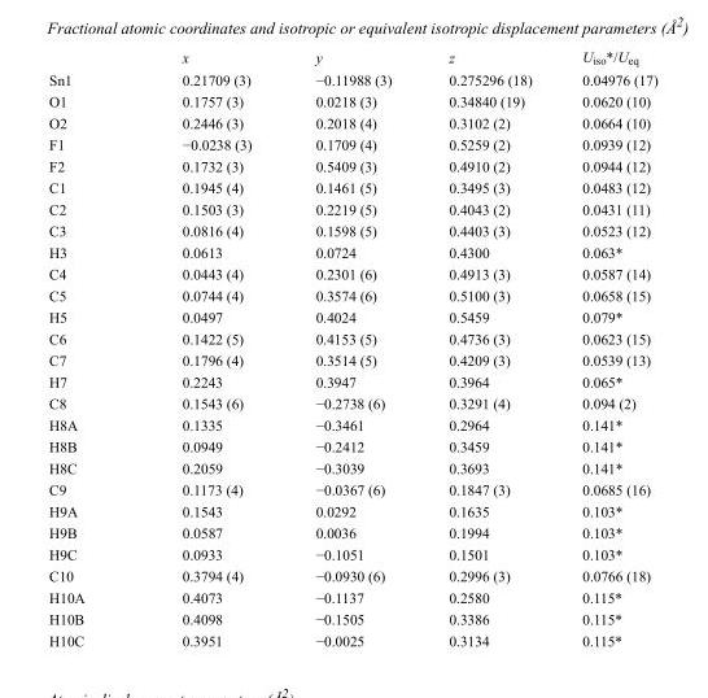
<table><thead><tr><td></td><td>x</td><td>y</td><td>z</td><td>U<sub>iso</sub>*/U<sub>eq</sub></td></tr></thead><tbody><tr><td>Sn1</td><td>0.21709 (3)</td><td>−0.11988 (3)</td><td>0.275296 (18)</td><td>0.04976 (17)</td></tr><tr><td>O1</td><td>0.1757 (3)</td><td>0.0218 (3)</td><td>0.34840 (19)</td><td>0.0620 (10)</td></tr><tr><td>O2</td><td>0.2446 (3)</td><td>0.2018 (4)</td><td>0.3102 (2)</td><td>0.0664 (10)</td></tr><tr><td>F1</td><td>−0.0238 (3)</td><td>0.1709 (4)</td><td>0.5259 (2)</td><td>0.0939 (12)</td></tr><tr><td>F2</td><td>0.1732 (3)</td><td>0.5409 (3)</td><td>0.4910 (2)</td><td>0.0944 (12)</td></tr><tr><td>C1</td><td>0.1945 (4)</td><td>0.1461 (5)</td><td>0.3495 (3)</td><td>0.0483 (12)</td></tr><tr><td>C2</td><td>0.1503 (3)</td><td>0.2219 (5)</td><td>0.4043 (2)</td><td>0.0431 (11)</td></tr><tr><td>C3</td><td>0.0816 (4)</td><td>0.1598 (5)</td><td>0.4403 (3)</td><td>0.0523 (12)</td></tr><tr><td>H3</td><td>0.0613</td><td>0.0724</td><td>0.4300</td><td>0.063*</td></tr><tr><td>C4</td><td>0.0443 (4)</td><td>0.2301 (6)</td><td>0.4913 (3)</td><td>0.0587 (14)</td></tr><tr><td>C5</td><td>0.0744 (4)</td><td>0.3574 (6)</td><td>0.5100 (3)</td><td>0.0658 (15)</td></tr><tr><td>H5</td><td>0.0497</td><td>0.4024</td><td>0.5459</td><td>0.079*</td></tr><tr><td>C6</td><td>0.1422 (5)</td><td>0.4153 (5)</td><td>0.4736 (3)</td><td>0.0623 (15)</td></tr><tr><td>C7</td><td>0.1796 (4)</td><td>0.3514 (5)</td><td>0.4209 (3)</td><td>0.0539 (13)</td></tr><tr><td>H7</td><td>0.2243</td><td>0.3947</td><td>0.3964</td><td>0.065*</td></tr><tr><td>C8</td><td>0.1543 (6)</td><td>−0.2738 (6)</td><td>0.3291 (4)</td><td>0.094 (2)</td></tr><tr><td>H8A</td><td>0.1335</td><td>−0.3461</td><td>0.2964</td><td>0.141*</td></tr><tr><td>H8B</td><td>0.0949</td><td>−0.2412</td><td>0.3459</td><td>0.141*</td></tr><tr><td>H8C</td><td>0.2059</td><td>−0.3039</td><td>0.3693</td><td>0.141*</td></tr><tr><td>C9</td><td>0.1173 (4)</td><td>−0.0367 (6)</td><td>0.1847 (3)</td><td>0.0685 (16)</td></tr><tr><td>H9A</td><td>0.1543</td><td>0.0292</td><td>0.1635</td><td>0.103*</td></tr><tr><td>H9B</td><td>0.0587</td><td>0.0036</td><td>0.1994</td><td>0.103*</td></tr><tr><td>H9C</td><td>0.0933</td><td>−0.1051</td><td>0.1501</td><td>0.103*</td></tr><tr><td>C10</td><td>0.3794 (4)</td><td>−0.0930 (6)</td><td>0.2996 (3)</td><td>0.0766 (18)</td></tr><tr><td>H10A</td><td>0.4073</td><td>−0.1137</td><td>0.2580</td><td>0.115*</td></tr><tr><td>H10B</td><td>0.4098</td><td>−0.1505</td><td>0.3386</td><td>0.115*</td></tr><tr><td>H10C</td><td>0.3951</td><td>−0.0025</td><td>0.3134</td><td>0.115*</td></tr></tbody></table>